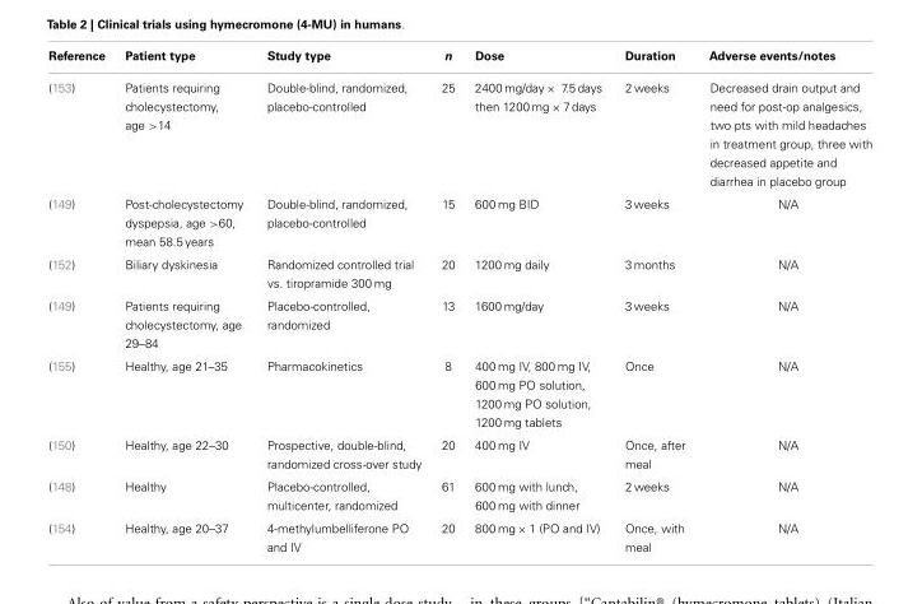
<table><thead><tr><td>Reference</td><td>Patient type</td><td>Study type</td><td>n</td><td>Dose</td><td>Duration</td><td>Adverse events/notes</td></tr></thead><tbody><tr><td>(153)</td><td>Patients requiring cholecystectomy, age &gt;14</td><td>Double-blind, randomized, placebo-controlled</td><td>25</td><td>2400 mg/day × 7.5 days then 1200 mg × 7 days</td><td>2 weeks</td><td>Decreased drain output and need for post-op analgesics, two pts with mild headaches in treatment group, three with decreased appetite and diarrhea in placebo group</td></tr><tr><td>(149)</td><td>Post-cholecystectomy dyspepsia, age &gt;60, mean 58.5 years</td><td>Double-blind, randomized, placebo-controlled</td><td>15</td><td>600 mg BID</td><td>3 weeks</td><td>N/A</td></tr><tr><td>(152)</td><td>Biliary dyskinesia</td><td>Randomized controlled trial vs. tiropramide 300 mg</td><td>20</td><td>1200 mg daily</td><td>3 months</td><td>N/A</td></tr><tr><td>(149)</td><td>Patients requiring cholecystectomy, age 29–84</td><td>Placebo-controlled, randomized</td><td>13</td><td>1600 mg/day</td><td>3 weeks</td><td>N/A</td></tr><tr><td>(155)</td><td>Healthy, age 21–35</td><td>Pharmacokinetics</td><td>8</td><td>400 mg IV, 800 mg IV, 600 mg PO solution, 1200 mg PO solution, 1200 mg tablets</td><td>Once</td><td>N/A</td></tr><tr><td>(150)</td><td>Healthy, age 22–30</td><td>Prospective, double-blind, randomized cross-over study</td><td>20</td><td>400 mg IV</td><td>Once, after meal</td><td>N/A</td></tr><tr><td>(148)</td><td>Healthy</td><td>Placebo-controlled, multicenter, randomized</td><td>61</td><td>600 mg with lunch, 600 mg with dinner</td><td>2 weeks</td><td>N/A</td></tr><tr><td>(154)</td><td>Healthy, age 20–37</td><td>4-methylumbelliferone PO and IV</td><td>20</td><td>800 mg × 1 (PO and IV)</td><td>Once, with meal</td><td>N/A</td></tr></tbody></table>